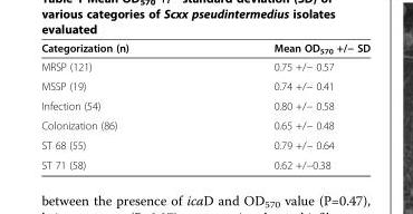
<table><thead><tr><td>Categorization (n)</td><td>Mean OD<sub>570</sub> +/− SD</td></tr></thead><tbody><tr><td>MRSP (121)</td><td>0.75 +/− 0.57</td></tr><tr><td>MSSP (19)</td><td>0.74 +/− 0.41</td></tr><tr><td>Infection (54)</td><td>0.80 +/− 0.58</td></tr><tr><td>Colonization (86)</td><td>0.65 +/− 0.48</td></tr><tr><td>ST 68 (55)</td><td>0.79 +/− 0.64</td></tr><tr><td>ST 71 (58)</td><td>0.62 +/−0.38</td></tr></tbody></table>